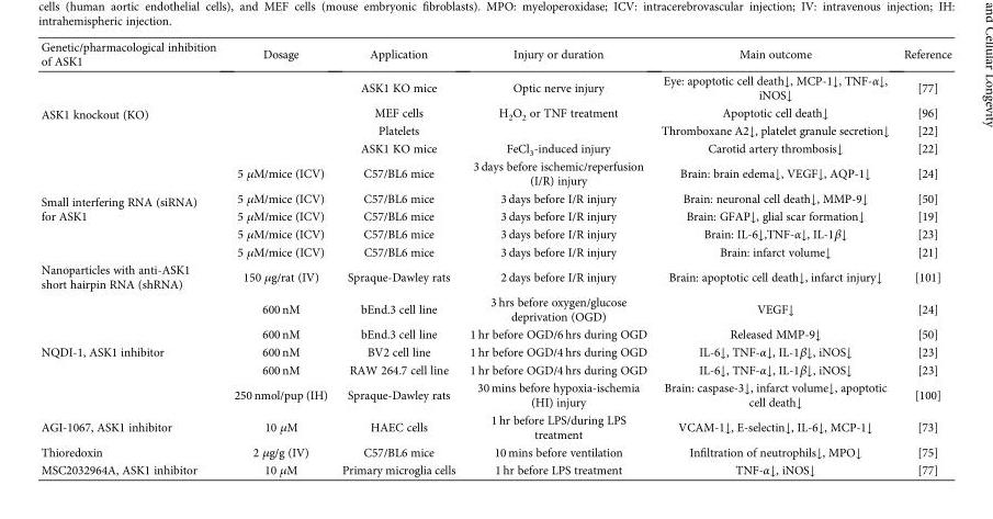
<table><thead><tr><td>Genetic/pharmacological inhibition of ASK1</td><td>Dosage</td><td>Application</td><td>Injury or duration</td><td>Main outcome</td><td>Reference</td></tr></thead><tbody><tr><td rowspan="4">ASK1 knockout (KO)</td><td></td><td>ASK1 KO mice</td><td>Optic nerve injury</td><td>Eye: apoptotic cell death↓, MCP-1↓, TNF-α↓, iNOS↓</td><td>[77]</td></tr><tr><td></td><td>MEF cells</td><td>H<sub>2</sub>O<sub>2</sub> or TNF treatment</td><td>Apoptotic cell death↓</td><td>[96]</td></tr><tr><td></td><td>Platelets</td><td></td><td>Thromboxane A2↓, platelet granule secretion↓</td><td>[22]</td></tr><tr><td></td><td>ASK1 KO mice</td><td>FeCl<sub>3</sub>-induced injury</td><td>Carotid artery thrombosis↓</td><td>[22]</td></tr><tr><td rowspan="5">Small interfering RNA (siRNA) for ASK1</td><td>5 μM/mice (ICV)</td><td>C57/BL6 mice</td><td>3 days before ischemic/reperfusion (I/R) injury</td><td>Brain: brain edema↓, VEGF↓, AQP-1↓</td><td>[24]</td></tr><tr><td>5 μM/mice (ICV)</td><td>C57/BL6 mice</td><td>3 days before I/R injury</td><td>Brain: neuronal cell death↓, MMP-9↓</td><td>[50]</td></tr><tr><td>5 μM/mice (ICV)</td><td>C57/BL6 mice</td><td>3 days before I/R injury</td><td>Brain: GFAP↓, glial scar formation↓</td><td>[19]</td></tr><tr><td>5 μM/mice (ICV)</td><td>C57/BL6 mice</td><td>3 days before I/R injury</td><td>Brain: IL-6↓,TNF-α↓, IL-1β↓</td><td>[23]</td></tr><tr><td>5 μM/mice (ICV)</td><td>C57/BL6 mice</td><td>3 days before I/R injury</td><td>Brain: infarct volume↓</td><td>[21]</td></tr><tr><td>Nanoparticles with anti-ASK1 short hairpin RNA (shRNA)</td><td>150 μg/rat (IV)</td><td>Spraque-Dawley rats</td><td>2 days before I/R injury</td><td>Brain: apoptotic cell death↓, infarct injury↓</td><td>[101]</td></tr><tr><td rowspan="5">NQDI-1, ASK1 inhibitor</td><td>600 nM</td><td>bEnd.3 cell line</td><td>3 hrs before oxygen/glucose deprivation (OGD)</td><td>VEGF↓</td><td>[24]</td></tr><tr><td>600 nM</td><td>bEnd.3 cell line</td><td>1 hr before OGD/6 hrs during OGD</td><td>Released MMP-9↓</td><td>[50]</td></tr><tr><td>600 nM</td><td>BV2 cell line</td><td>1 hr before OGD/4 hrs during OGD</td><td>IL-6↓, TNF-α↓, IL-1β↓, iNOS↓</td><td>[23]</td></tr><tr><td>600 nM</td><td>RAW 264.7 cell line</td><td>1 hr before OGD/4 hrs during OGD</td><td>IL-6↓, TNF-α↓, IL-1β↓, iNOS↓</td><td>[23]</td></tr><tr><td>250 nmol/pup (IH)</td><td>Spraque-Dawley rats</td><td>30 mins before hypoxia-ischemia (HI) injury</td><td>Brain: caspase-3↓, infarct volume↓, apoptotic cell death↓</td><td>[100]</td></tr><tr><td>AGI-1067, ASK1 inhibitor</td><td>10 μM</td><td>HAEC cells</td><td>1 hr before LPS/during LPS treatment</td><td>VCAM-1↓, E-selectin↓, IL-6↓, MCP-1↓</td><td>[73]</td></tr><tr><td>Thioredoxin</td><td>2 μg/g (IV)</td><td>C57/BL6 mice</td><td>10 mins before ventilation</td><td>Infiltration of neutrophils↓, MPO↓</td><td>[75]</td></tr><tr><td>MSC2032964A, ASK1 inhibitor</td><td>10 μM</td><td>Primary microglia cells</td><td>1 hr before LPS treatment</td><td>TNF-α↓, iNOS↓</td><td>[77]</td></tr></tbody></table>